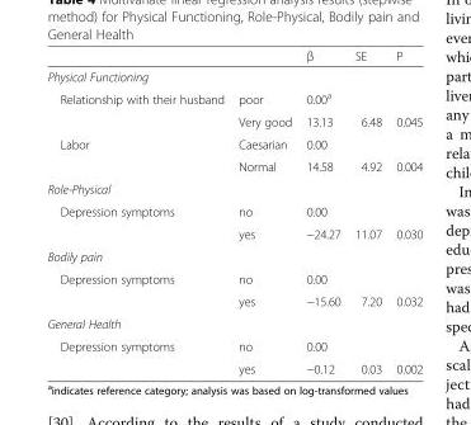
<table><thead><tr><td></td><td></td><td>β</td><td>SE</td><td>P</td></tr></thead><tbody><tr><td colspan="5">Physical Functioning</td></tr><tr><td rowspan="2">Relationship with their husband</td><td>poor</td><td>0.00<sup>a</sup></td><td></td><td></td></tr><tr><td>Very good</td><td>13.13</td><td>6.48</td><td>0.045</td></tr><tr><td rowspan="2">Labor</td><td>Caesarian</td><td>0.00</td><td></td><td></td></tr><tr><td>Normal</td><td>14.58</td><td>4.92</td><td>0.004</td></tr><tr><td colspan="5">Role-Physical</td></tr><tr><td rowspan="2">Depression symptoms</td><td>no</td><td>0.00</td><td></td><td></td></tr><tr><td>yes</td><td>−24.27</td><td>11.07</td><td>0.030</td></tr><tr><td colspan="5">Bodily pain</td></tr><tr><td rowspan="2">Depression symptoms</td><td>no</td><td>0.00</td><td></td><td></td></tr><tr><td>yes</td><td>−15.60</td><td>7.20</td><td>0.032</td></tr><tr><td colspan="5">General Health</td></tr><tr><td rowspan="2">Depression symptoms</td><td>no</td><td>0.00</td><td></td><td></td></tr><tr><td>yes</td><td>−0.12</td><td>0.03</td><td>0.002</td></tr></tbody></table>